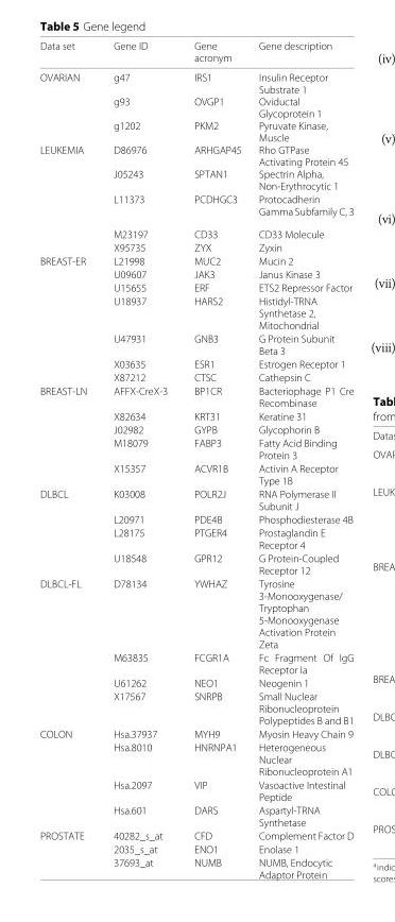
<table><thead><tr><td>Data set</td><td>Gene ID</td><td>Gene acronym</td><td>Gene description</td></tr></thead><tbody><tr><td rowspan="3">OVARIAN</td><td>g47</td><td>IRS1</td><td>Insulin Receptor Substrate 1</td></tr><tr><td>g93</td><td>OVGP1</td><td>Oviductal Glycoprotein 1</td></tr><tr><td>g1202</td><td>PKM2</td><td>Pyruvate Kinase, Muscle</td></tr><tr><td rowspan="5">LEUKEMIA</td><td>D86976</td><td>ARHGAP45</td><td>Rho GTPase Activating Protein 45</td></tr><tr><td>J05243</td><td>SPTAN1</td><td>Spectrin Alpha, Non-Erythrocytic 1</td></tr><tr><td>L11373</td><td>PCDHGC3</td><td>Protocadherin Gamma Subfamily C, 3</td></tr><tr><td>M23197</td><td>CD33</td><td>CD33 Molecule</td></tr><tr><td>X95735</td><td>ZYX</td><td>Zyxin</td></tr><tr><td rowspan="7">BREAST-ER</td><td>L21998</td><td>MUC2</td><td>Mucin 2</td></tr><tr><td>U09607</td><td>JAK3</td><td>Janus Kinase 3</td></tr><tr><td>U15655</td><td>ERF</td><td>ETS2 Repressor Factor</td></tr><tr><td>U18937</td><td>HARS2</td><td>Histidyl-TRNA Synthetase 2, Mitochondrial</td></tr><tr><td>U47931</td><td>GNB3</td><td>G Protein Subunit Beta 3</td></tr><tr><td>X03635</td><td>ESR1</td><td>Estrogen Receptor 1</td></tr><tr><td>X87212</td><td>CTSC</td><td>Cathepsin C</td></tr><tr><td rowspan="5">BREAST-LN</td><td>AFFX-CreX-3</td><td>BP1CR</td><td>Bacteriophage P1 Cre Recombinase</td></tr><tr><td>X82634</td><td>KRT31</td><td>Keratine 31</td></tr><tr><td>J02982</td><td>GYPB</td><td>Glycophorin B</td></tr><tr><td>M18079</td><td>FABP3</td><td>Fatty Acid Binding Protein 3</td></tr><tr><td>X15357</td><td>ACVR1B</td><td>Activin A Receptor Type 1B</td></tr><tr><td rowspan="4">DLBCL</td><td>K03008</td><td>POLR2J</td><td>RNA Polymerase II Subunit J</td></tr><tr><td>L20971</td><td>PDE4B</td><td>Phosphodiesterase 4B</td></tr><tr><td>L28175</td><td>PTGER4</td><td>Prostaglandin E Receptor 4</td></tr><tr><td>U18548</td><td>GPR12</td><td>G Protein-Coupled Receptor 12</td></tr><tr><td rowspan="4">DLBCL-FL</td><td>D78134</td><td>YWHAZ</td><td>Tyrosine 3-Monooxygenase/ Tryptophan 5-Monooxygenase Activation Protein Zeta</td></tr><tr><td>M63835</td><td>FCGR1A</td><td>Fc Fragment Of IgG Receptor Ia</td></tr><tr><td>U61262</td><td>NEO1</td><td>Neogenin 1</td></tr><tr><td>X17567</td><td>SNRPB</td><td>Small Nuclear Ribonucleoprotein Polypeptides B and B1</td></tr><tr><td rowspan="4">COLON</td><td>Hsa.37937</td><td>MYH9</td><td>Myosin Heavy Chain 9</td></tr><tr><td>Hsa.8010</td><td>HNRNPA1</td><td>Heterogeneous Nuclear Ribonucleoprotein A1</td></tr><tr><td>Hsa.2097</td><td>VIP</td><td>Vasoactive Intestinal Peptide</td></tr><tr><td>Hsa.601</td><td>DARS</td><td>Aspartyl-TRNA Synthetase</td></tr><tr><td rowspan="3">PROSTATE</td><td>40282_s_at</td><td>CFD</td><td>Complement Factor D</td></tr><tr><td>2035_s_at</td><td>ENO1</td><td>Enolase 1</td></tr><tr><td>37693_at</td><td>NUMB</td><td>NUMB, Endocytic Adaptor Protein</td></tr></tbody></table>